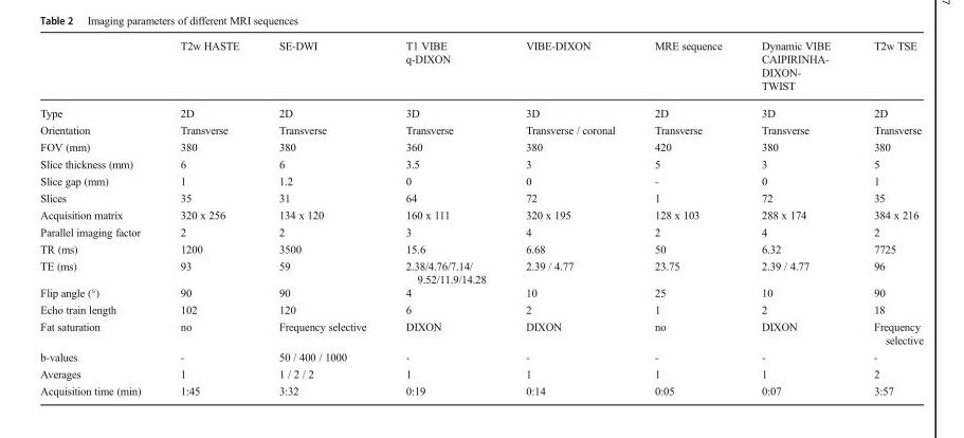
<table><thead><tr><td></td><td>T2w HASTE</td><td>SE-DWI</td><td>T1 VIBE q-DIXON</td><td>VIBE-DIXON</td><td>MRE sequence</td><td>Dynamic VIBE CAIPIRINHA- DIXON- TWIST</td><td>T2w TSE</td></tr></thead><tbody><tr><td>Type</td><td>2D</td><td>2D</td><td>3D</td><td>3D</td><td>2D</td><td>3D</td><td>2D</td></tr><tr><td>Orientation</td><td>Transverse</td><td>Transverse</td><td>Transverse</td><td>Transverse / coronal</td><td>Transverse</td><td>Transverse</td><td>Transverse</td></tr><tr><td>FOV (mm)</td><td>380</td><td>380</td><td>360</td><td>380</td><td>420</td><td>380</td><td>380</td></tr><tr><td>Slice thickness (mm)</td><td>6</td><td>6</td><td>3.5</td><td>3</td><td>5</td><td>3</td><td>5</td></tr><tr><td>Slice gap (mm)</td><td>1</td><td>1.2</td><td>0</td><td>0</td><td>-</td><td>0</td><td>1</td></tr><tr><td>Slices</td><td>35</td><td>31</td><td>64</td><td>72</td><td>1</td><td>72</td><td>35</td></tr><tr><td>Acquisition matrix</td><td>320 x 256</td><td>134 x 120</td><td>160 x 111</td><td>320 x 195</td><td>128 x 103</td><td>288 x 174</td><td>384 x 216</td></tr><tr><td>Parallel imaging factor</td><td>2</td><td>2</td><td>3</td><td>4</td><td>2</td><td>4</td><td>2</td></tr><tr><td>TR (ms)</td><td>1200</td><td>3500</td><td>15.6</td><td>6.68</td><td>50</td><td>6.32</td><td>7725</td></tr><tr><td>TE (ms)</td><td>93</td><td>59</td><td>2.38/4.76/7.14/ 9.52/11.9/14.28</td><td>2.39 / 4.77</td><td>23.75</td><td>2.39 / 4.77</td><td>96</td></tr><tr><td>Flip angle (°)</td><td>90</td><td>90</td><td>4</td><td>10</td><td>25</td><td>10</td><td>90</td></tr><tr><td>Echo train length</td><td>102</td><td>120</td><td>6</td><td>2</td><td>1</td><td>2</td><td>18</td></tr><tr><td>Fat saturation</td><td>no</td><td>Frequency selective</td><td>DIXON</td><td>DIXON</td><td>no</td><td>DIXON</td><td>Frequency selective</td></tr><tr><td>b-values</td><td>-</td><td>50 / 400 / 1000</td><td>-</td><td>-</td><td>-</td><td>-</td><td>-</td></tr><tr><td>Averages</td><td>1</td><td>1 / 2 / 2</td><td>1</td><td>1</td><td>1</td><td>1</td><td>2</td></tr><tr><td>Acquisition time (min)</td><td>1:45</td><td>3:32</td><td>0:19</td><td>0:14</td><td>0:05</td><td>0:07</td><td>3:57</td></tr></tbody></table>